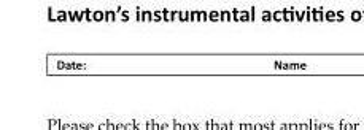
<table><tbody><tr><td>Date:</td><td>Name</td></tr></tbody></table>